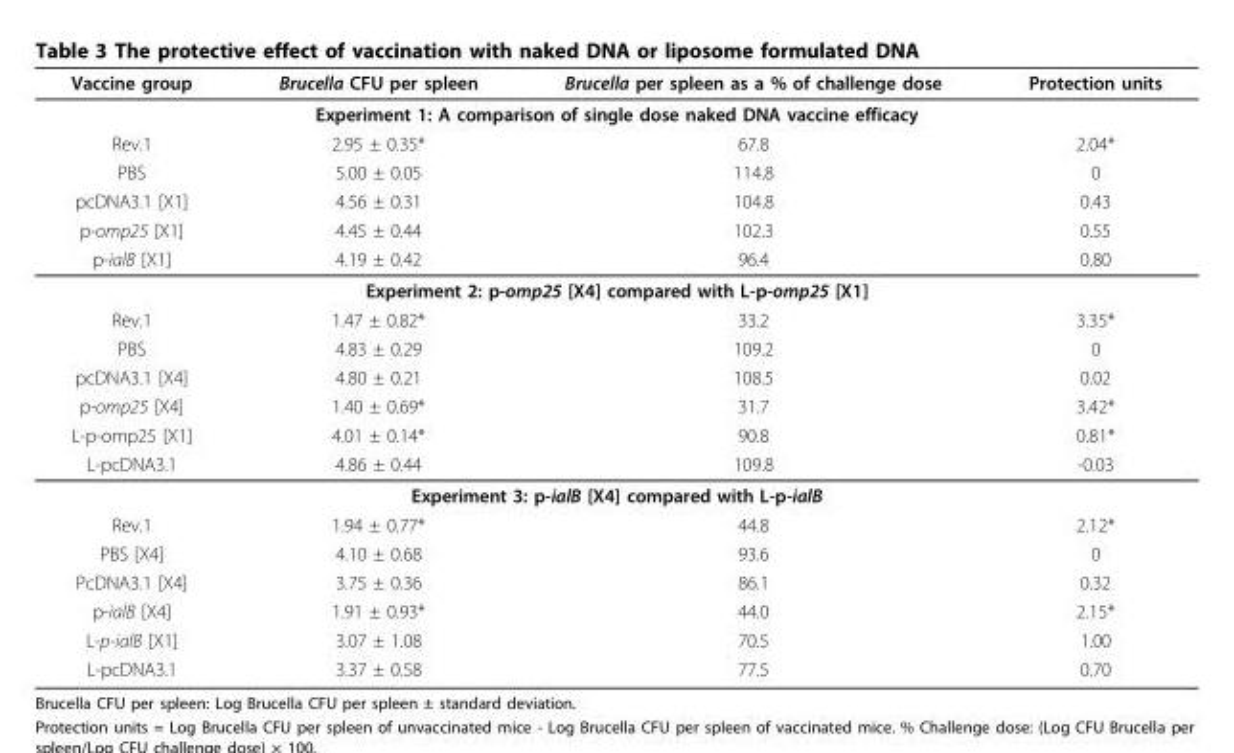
<table><thead><tr><td>Vaccine group</td><td>Brucella CFU per spleen</td><td>Brucella per spleen as a % of challenge dose</td><td>Protection units</td></tr></thead><tbody><tr><td colspan="4">Experiment 1: A comparison of single dose naked DNA vaccine efficacy</td></tr><tr><td>Rev.1</td><td>2.95 ± 0.35*</td><td>67.8</td><td>2.04*</td></tr><tr><td>PBS</td><td>5.00 ± 0.05</td><td>114.8</td><td>0</td></tr><tr><td>pcDNA3.1 [X1]</td><td>4.56 ± 0.31</td><td>104.8</td><td>0.43</td></tr><tr><td>p-omp25 [X1]</td><td>4.45 ± 0.44</td><td>102.3</td><td>0.55</td></tr><tr><td>p-ialB [X1]</td><td>4.19 ± 0.42</td><td>96.4</td><td>0.80</td></tr><tr><td colspan="4">Experiment 2: p-omp25 [X4] compared with L-p-omp25 [X1]</td></tr><tr><td>Rev.1</td><td>1.47 ± 0.82*</td><td>33.2</td><td>3.35*</td></tr><tr><td>PBS</td><td>4.83 ± 0.29</td><td>109.2</td><td>0</td></tr><tr><td>pcDNA3.1 [X4]</td><td>4.80 ± 0.21</td><td>108.5</td><td>0.02</td></tr><tr><td>p-omp25 [X4]</td><td>1.40 ± 0.69*</td><td>31.7</td><td>3.42*</td></tr><tr><td>L-p-omp25 [X1]</td><td>4.01 ± 0.14*</td><td>90.8</td><td>0.81*</td></tr><tr><td>L-pcDNA3.1</td><td>4.86 ± 0.44</td><td>109.8</td><td>-0.03</td></tr><tr><td colspan="4">Experiment 3: p-ialB [X4] compared with L-p-ialB</td></tr><tr><td>Rev.1</td><td>1.94 ± 0.77*</td><td>44.8</td><td>2.12*</td></tr><tr><td>PBS [X4]</td><td>4.10 ± 0.68</td><td>93.6</td><td>0</td></tr><tr><td>PcDNA3.1 [X4]</td><td>3.75 ± 0.36</td><td>86.1</td><td>0.32</td></tr><tr><td>p-ialB [X4]</td><td>1.91 ± 0.93*</td><td>44.0</td><td>2.15*</td></tr><tr><td>L-p-ialB [X1]</td><td>3.07 ± 1.08</td><td>70.5</td><td>1.00</td></tr><tr><td>L-pcDNA3.1</td><td>3.37 ± 0.58</td><td>77.5</td><td>0.70</td></tr></tbody></table>